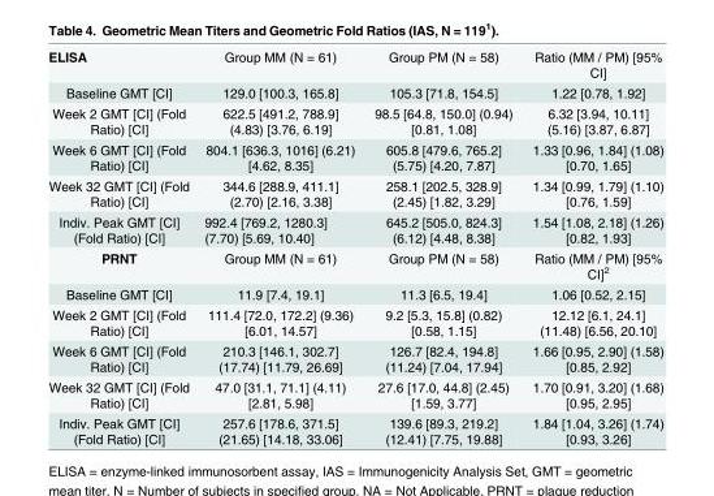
<table><tbody><tr><td>ELISA</td><td>Group MM (N = 61)</td><td>Group PM (N = 58)</td><td>Ratio (MM / PM) [95% CI]</td></tr><tr><td>Baseline GMT [CI]</td><td>129.0 [100.3, 165.8]</td><td>105.3 [71.8, 154.5]</td><td>1.22 [0.78, 1.92]</td></tr><tr><td>Week 2 GMT [CI] (Fold Ratio) [CI]</td><td>622.5 [491.2, 788.9] (4.83) [3.76, 6.19]</td><td>98.5 [64.8, 150.0] (0.94) [0.81, 1.08]</td><td>6.32 [3.94, 10.11] (5.16) [3.87, 6.87]</td></tr><tr><td>Week 6 GMT [CI] (Fold Ratio) [CI]</td><td>804.1 [636.3, 1016] (6.21) [4.62, 8.35]</td><td>605.8 [479.6, 765.2] (5.75) [4.20, 7.87]</td><td>1.33 [0.96, 1.84] (1.08) [0.70, 1.65]</td></tr><tr><td>Week 32 GMT [CI] (Fold Ratio) [CI]</td><td>344.6 [288.9, 411.1] (2.70) [2.16, 3.38]</td><td>258.1 [202.5, 328.9] (2.45) [1.82, 3.29]</td><td>1.34 [0.99, 1.79] (1.10) [0.76, 1.59]</td></tr><tr><td>Indiv. Peak GMT [CI] (Fold Ratio) [CI]</td><td>992.4 [769.2, 1280.3] (7.70) [5.69, 10.40]</td><td>645.2 [505.0, 824.3] (6.12) [4.48, 8.38]</td><td>1.54 [1.08, 2.18] (1.26) [0.82, 1.93]</td></tr><tr><td>PRNT</td><td>Group MM (N = 61)</td><td>Group PM (N = 58)</td><td>Ratio (MM / PM) [95% CI]<sup>2</sup></td></tr><tr><td>Baseline GMT [CI]</td><td>11.9 [7.4, 19.1]</td><td>11.3 [6.5, 19.4]</td><td>1.06 [0.52, 2.15]</td></tr><tr><td>Week 2 GMT [CI] (Fold Ratio) [CI]</td><td>111.4 [72.0, 172.2] (9.36) [6.01, 14.57]</td><td>9.2 [5.3, 15.8] (0.82) [0.58, 1.15]</td><td>12.12 [6.1, 24.1] (11.48) [6.56, 20.10]</td></tr><tr><td>Week 6 GMT [CI] (Fold Ratio) [CI]</td><td>210.3 [146.1, 302.7] (17.74) [11.79, 26.69]</td><td>126.7 [82.4, 194.8] (11.24) [7.04, 17.94]</td><td>1.66 [0.95, 2.90] (1.58) [0.85, 2.92]</td></tr><tr><td>Week 32 GMT [CI] (Fold Ratio) [CI]</td><td>47.0 [31.1, 71.1] (4.11) [2.81, 5.98]</td><td>27.6 [17.0, 44.8] (2.45) [1.59, 3.77]</td><td>1.70 [0.91, 3.20] (1.68) [0.95, 2.95]</td></tr><tr><td>Indiv. Peak GMT [CI] (Fold Ratio) [CI]</td><td>257.6 [178.6, 371.5] (21.65) [14.18, 33.06]</td><td>139.6 [89.3, 219.2] (12.41) [7.75, 19.88]</td><td>1.84 [1.04, 3.26] (1.74) [0.93, 3.26]</td></tr></tbody></table>